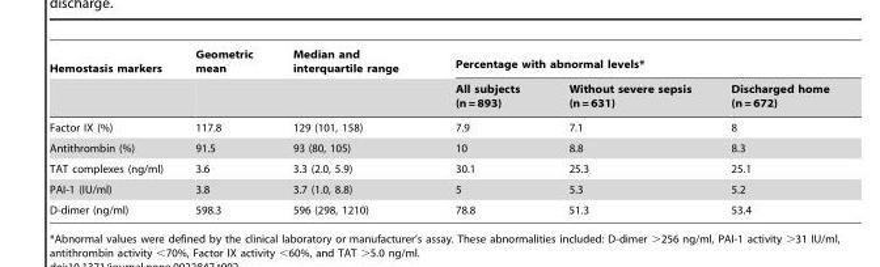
<table><thead><tr><td rowspan="2">Hemostasis markers</td><td rowspan="2">Geometric mean</td><td rowspan="2">Median and interquartile range</td><td colspan="3">Percentage with abnormal levels*</td></tr><tr><td>All subjects (n = 893)</td><td>Without severe sepsis (n = 631)</td><td>Discharged home (n = 672)</td></tr></thead><tbody><tr><td>Factor IX (%)</td><td>117.8</td><td>129 (101, 158)</td><td>7.9</td><td>7.1</td><td>8</td></tr><tr><td>Antithrombin (%)</td><td>91.5</td><td>93 (80, 105)</td><td>10</td><td>8.8</td><td>8.3</td></tr><tr><td>TAT complexes (ng/ml)</td><td>3.6</td><td>3.3 (2.0, 5.9)</td><td>30.1</td><td>25.3</td><td>25.1</td></tr><tr><td>PAI-1 (IU/ml)</td><td>3.8</td><td>3.7 (1.0, 8.8)</td><td>5</td><td>5.3</td><td>5.2</td></tr><tr><td>D-dimer (ng/ml)</td><td>598.3</td><td>596 (298, 1210)</td><td>78.8</td><td>51.3</td><td>53.4</td></tr></tbody></table>